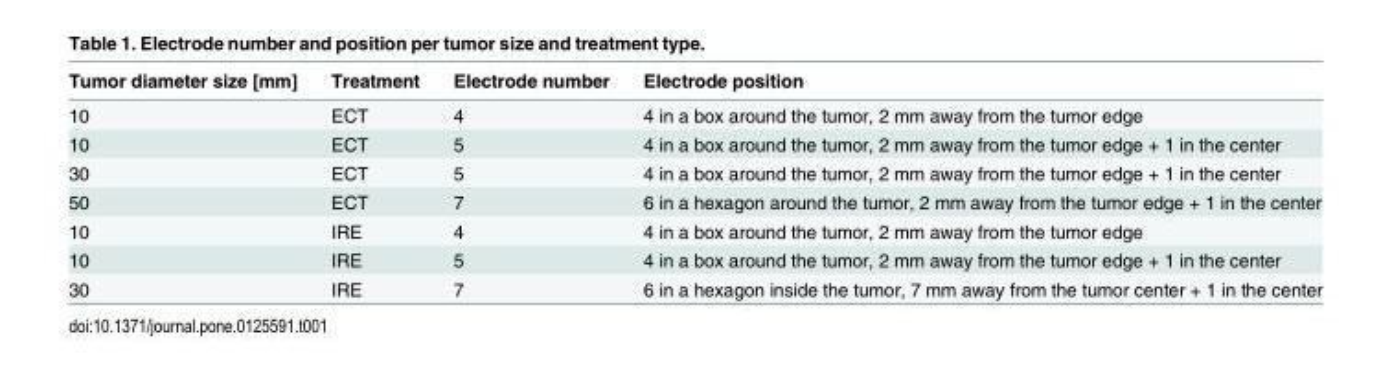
<table><thead><tr><td>Tumor diameter size [mm]</td><td>Treatment</td><td>Electrode number</td><td>Electrode position</td></tr></thead><tbody><tr><td>10</td><td>ECT</td><td>4</td><td>4 in a box around the tumor, 2 mm away from the tumor edge</td></tr><tr><td>10</td><td>ECT</td><td>5</td><td>4 in a box around the tumor, 2 mm away from the tumor edge + 1 in the center</td></tr><tr><td>30</td><td>ECT</td><td>5</td><td>4 in a box around the tumor, 2 mm away from the tumor edge + 1 in the center</td></tr><tr><td>50</td><td>ECT</td><td>7</td><td>6 in a hexagon around the tumor, 2 mm away from the tumor edge + 1 in the center</td></tr><tr><td>10</td><td>IRE</td><td>4</td><td>4 in a box around the tumor, 2 mm away from the tumor edge</td></tr><tr><td>10</td><td>IRE</td><td>5</td><td>4 in a box around the tumor, 2 mm away from the tumor edge + 1 in the center</td></tr><tr><td>30</td><td>IRE</td><td>7</td><td>6 in a hexagon inside the tumor, 7 mm away from the tumor center + 1 in the center</td></tr></tbody></table>